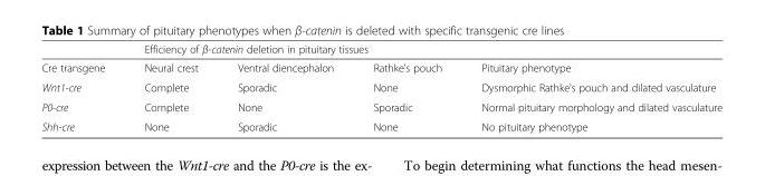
<table><thead><tr><td rowspan="2">Cre transgene</td><td colspan="3">Efficiency of β-catenin deletion in pituitary tissues</td><td rowspan="2">Pituitary phenotype</td></tr><tr><td>Neural crest</td><td>Ventral diencephalon</td><td>Rathke&#x27;s pouch</td></tr></thead><tbody><tr><td>Wnt1-cre</td><td>Complete</td><td>Sporadic</td><td>None</td><td>Dysmorphic Rathke&#x27;s pouch and dilated vasculature</td></tr><tr><td>P0-cre</td><td>Complete</td><td>None</td><td>Sporadic</td><td>Normal pituitary morphology and dilated vasculature</td></tr><tr><td>Shh-cre</td><td>None</td><td>Sporadic</td><td>None</td><td>No pituitary phenotype</td></tr></tbody></table>